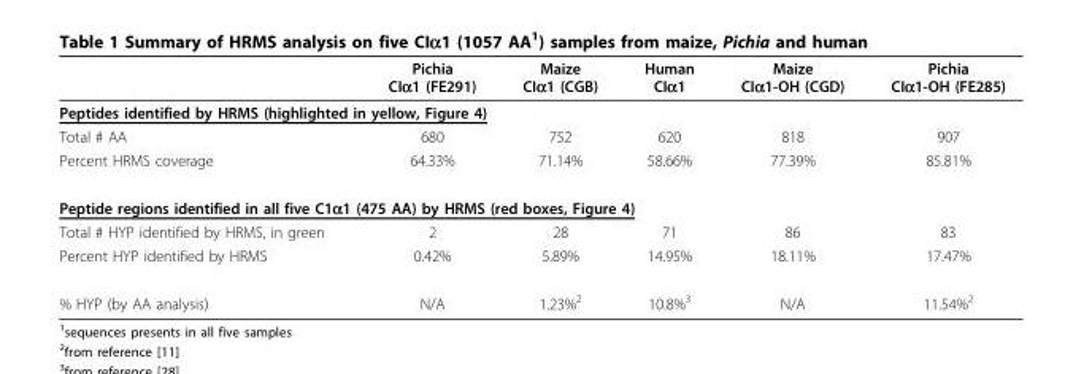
<table><thead><tr><td></td><td>Pichia CIα1 (FE291)</td><td>Maize CIα1 (CGB)</td><td>Human CIα1</td><td>Maize CIα1-OH (CGD)</td><td>Pichia CIα1-OH (FE285)</td></tr></thead><tbody><tr><td colspan="6">Peptides identified by HRMS (highlighted in yellow, Figure 4)</td></tr><tr><td>Total # AA</td><td>680</td><td>752</td><td>620</td><td>818</td><td>907</td></tr><tr><td>Percent HRMS coverage</td><td>64.33%</td><td>71.14%</td><td>58.66%</td><td>77.39%</td><td>85.81%</td></tr><tr><td colspan="6">Peptide regions identified in all five C1α1 (475 AA) by HRMS (red boxes, Figure 4)</td></tr><tr><td>Total # HYP identified by HRMS, in green</td><td>2</td><td>28</td><td>71</td><td>86</td><td>83</td></tr><tr><td>Percent HYP identified by HRMS</td><td>0.42%</td><td>5.89%</td><td>14.95%</td><td>18.11%</td><td>17.47%</td></tr><tr><td>% HYP (by AA analysis)</td><td>N/A</td><td>1.23%<sup>2</sup></td><td>10.8%<sup>3</sup></td><td>N/A</td><td>11.54%<sup>2</sup></td></tr></tbody></table>